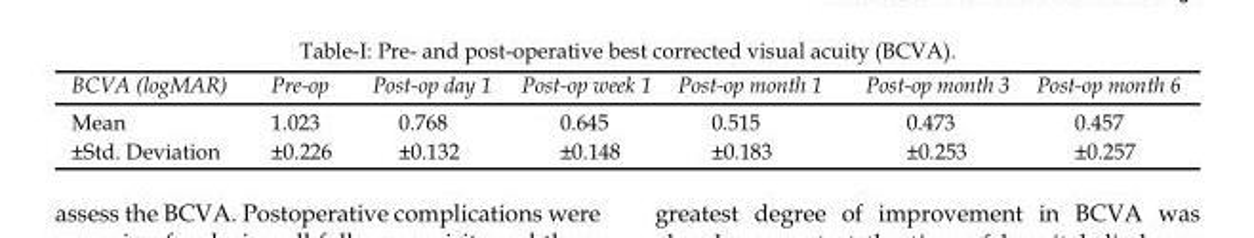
<table><thead><tr><td>BCVA (logMAR)</td><td>Pre-op</td><td>Post-op day 1</td><td>Post-op week 1</td><td>Post-op month 1</td><td>Post-op month 3</td><td>Post-op month 6</td></tr></thead><tbody><tr><td>Mean</td><td>1.023</td><td>0.768</td><td>0.645</td><td>0.515</td><td>0.473</td><td>0.457</td></tr><tr><td>±Std. Deviation</td><td>±0.226</td><td>±0.132</td><td>±0.148</td><td>±0.183</td><td>±0.253</td><td>±0.257</td></tr></tbody></table>